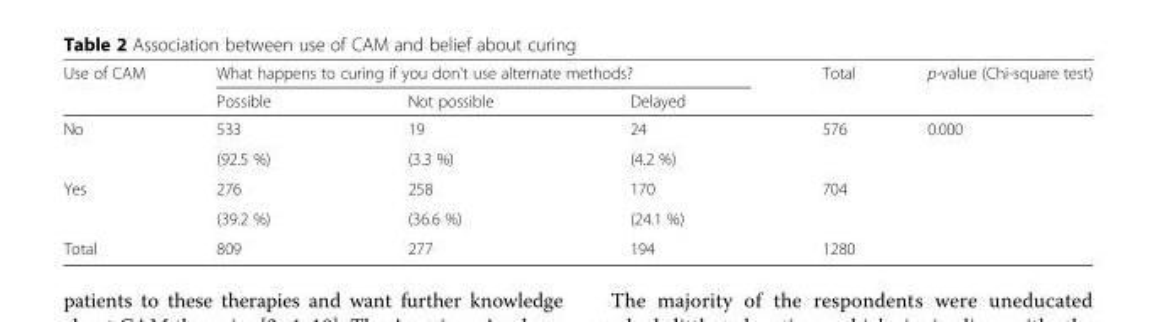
<table><thead><tr><td rowspan="2">Use of CAM</td><td colspan="3">What happens to curing if you don&#x27;t use alternate methods?</td><td rowspan="2">Total</td><td rowspan="2">p-value (Chi-square test)</td></tr><tr><td>Possible</td><td>Not possible</td><td>Delayed</td></tr></thead><tbody><tr><td rowspan="2">No</td><td>533</td><td>19</td><td>24</td><td>576</td><td rowspan="4">0.000</td></tr><tr><td>(92.5 %)</td><td>(3.3 %)</td><td>(4.2 %)</td><td></td></tr><tr><td rowspan="2">Yes</td><td>276</td><td>258</td><td>170</td><td>704</td></tr><tr><td>(39.2 %)</td><td>(36.6 %)</td><td>(24.1 %)</td><td></td></tr><tr><td>Total</td><td>809</td><td>277</td><td>194</td><td>1280</td><td></td></tr></tbody></table>